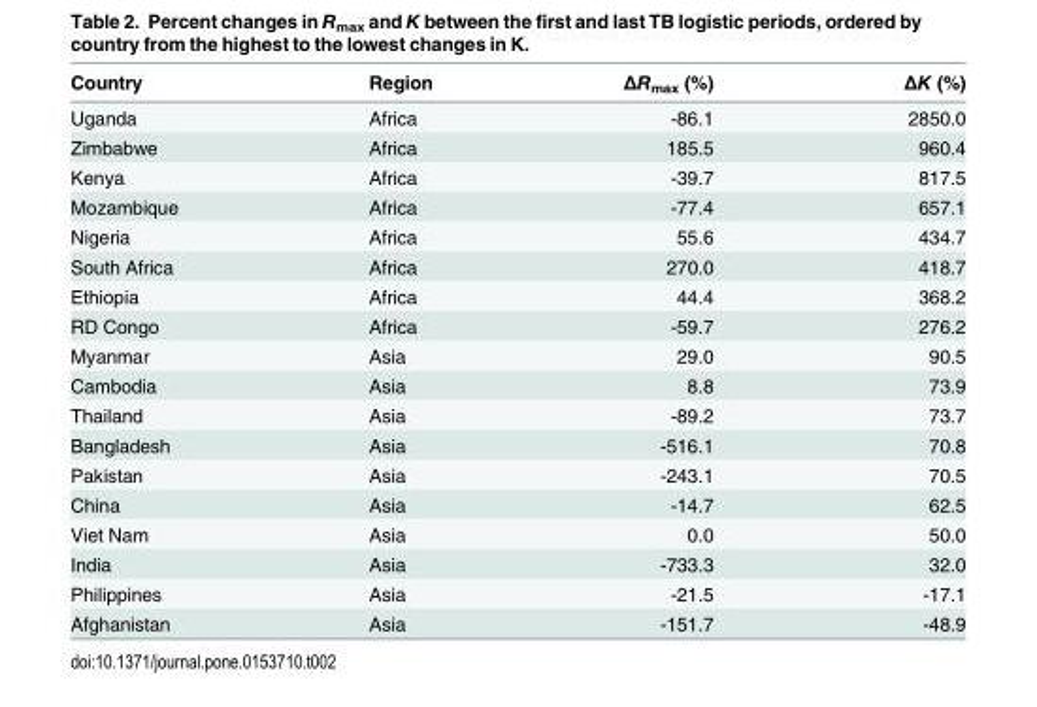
<table><thead><tr><td>Country</td><td>Region</td><td>ΔR<sub>max</sub> (%)</td><td>ΔK (%)</td></tr></thead><tbody><tr><td>Uganda</td><td>Africa</td><td>-86.1</td><td>2850.0</td></tr><tr><td>Zimbabwe</td><td>Africa</td><td>185.5</td><td>960.4</td></tr><tr><td>Kenya</td><td>Africa</td><td>-39.7</td><td>817.5</td></tr><tr><td>Mozambique</td><td>Africa</td><td>-77.4</td><td>657.1</td></tr><tr><td>Nigeria</td><td>Africa</td><td>55.6</td><td>434.7</td></tr><tr><td>South Africa</td><td>Africa</td><td>270.0</td><td>418.7</td></tr><tr><td>Ethiopia</td><td>Africa</td><td>44.4</td><td>368.2</td></tr><tr><td>RD Congo</td><td>Africa</td><td>-59.7</td><td>276.2</td></tr><tr><td>Myanmar</td><td>Asia</td><td>29.0</td><td>90.5</td></tr><tr><td>Cambodia</td><td>Asia</td><td>8.8</td><td>73.9</td></tr><tr><td>Thailand</td><td>Asia</td><td>-89.2</td><td>73.7</td></tr><tr><td>Bangladesh</td><td>Asia</td><td>-516.1</td><td>70.8</td></tr><tr><td>Pakistan</td><td>Asia</td><td>-243.1</td><td>70.5</td></tr><tr><td>China</td><td>Asia</td><td>-14.7</td><td>62.5</td></tr><tr><td>Viet Nam</td><td>Asia</td><td>0.0</td><td>50.0</td></tr><tr><td>India</td><td>Asia</td><td>-733.3</td><td>32.0</td></tr><tr><td>Philippines</td><td>Asia</td><td>-21.5</td><td>-17.1</td></tr><tr><td>Afghanistan</td><td>Asia</td><td>-151.7</td><td>-48.9</td></tr></tbody></table>